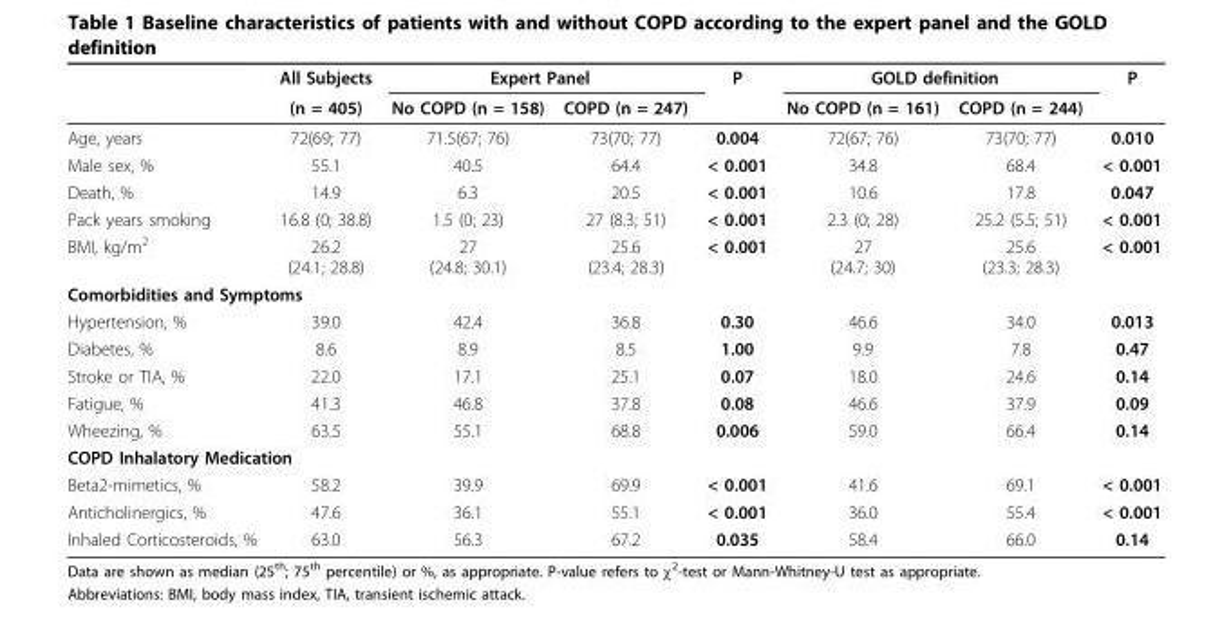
<table><thead><tr><td rowspan="2"></td><td rowspan="2">All Subjects (n = 405)</td><td colspan="2">Expert Panel</td><td rowspan="2">P</td><td colspan="2">GOLD definition</td><td rowspan="2">P</td></tr><tr><td>No COPD (n = 158)</td><td>COPD (n = 247)</td><td>No COPD (n = 161)</td><td>COPD (n = 244)</td></tr></thead><tbody><tr><td>Age, years</td><td>72(69; 77)</td><td>71.5(67; 76)</td><td>73(70; 77)</td><td>0.004</td><td>72(67; 76)</td><td>73(70; 77)</td><td>0.010</td></tr><tr><td>Male sex, %</td><td>55.1</td><td>40.5</td><td>64.4</td><td>&lt; 0.001</td><td>34.8</td><td>68.4</td><td>&lt; 0.001</td></tr><tr><td>Death, %</td><td>14.9</td><td>6.3</td><td>20.5</td><td>&lt; 0.001</td><td>10.6</td><td>17.8</td><td>0.047</td></tr><tr><td>Pack years smoking</td><td>16.8 (0; 38.8)</td><td>1.5 (0; 23)</td><td>27 (8.3; 51)</td><td>&lt; 0.001</td><td>2.3 (0; 28)</td><td>25.2 (5.5; 51)</td><td>&lt; 0.001</td></tr><tr><td>BMI, kg/m<sup>2</sup></td><td>26.2 (24.1; 28.8)</td><td>27 (24.8; 30.1)</td><td>25.6 (23.4; 28.3)</td><td>&lt; 0.001</td><td>27 (24.7; 30)</td><td>25.6 (23.3; 28.3)</td><td>&lt; 0.001</td></tr><tr><td colspan="8">Comorbidities and Symptoms</td></tr><tr><td>Hypertension, %</td><td>39.0</td><td>42.4</td><td>36.8</td><td>0.30</td><td>46.6</td><td>34.0</td><td>0.013</td></tr><tr><td>Diabetes, %</td><td>8.6</td><td>8.9</td><td>8.5</td><td>1.00</td><td>9.9</td><td>7.8</td><td>0.47</td></tr><tr><td>Stroke or TIA, %</td><td>22.0</td><td>17.1</td><td>25.1</td><td>0.07</td><td>18.0</td><td>24.6</td><td>0.14</td></tr><tr><td>Fatigue, %</td><td>41.3</td><td>46.8</td><td>37.8</td><td>0.08</td><td>46.6</td><td>37.9</td><td>0.09</td></tr><tr><td>Wheezing, %</td><td>63.5</td><td>55.1</td><td>68.8</td><td>0.006</td><td>59.0</td><td>66.4</td><td>0.14</td></tr><tr><td colspan="8">COPD Inhalatory Medication</td></tr><tr><td>Beta2-mimetics, %</td><td>58.2</td><td>39.9</td><td>69.9</td><td>&lt; 0.001</td><td>41.6</td><td>69.1</td><td>&lt; 0.001</td></tr><tr><td>Anticholinergics, %</td><td>47.6</td><td>36.1</td><td>55.1</td><td>&lt; 0.001</td><td>36.0</td><td>55.4</td><td>&lt; 0.001</td></tr><tr><td>Inhaled Corticosteroids, %</td><td>63.0</td><td>56.3</td><td>67.2</td><td>0.035</td><td>58.4</td><td>66.0</td><td>0.14</td></tr></tbody></table>